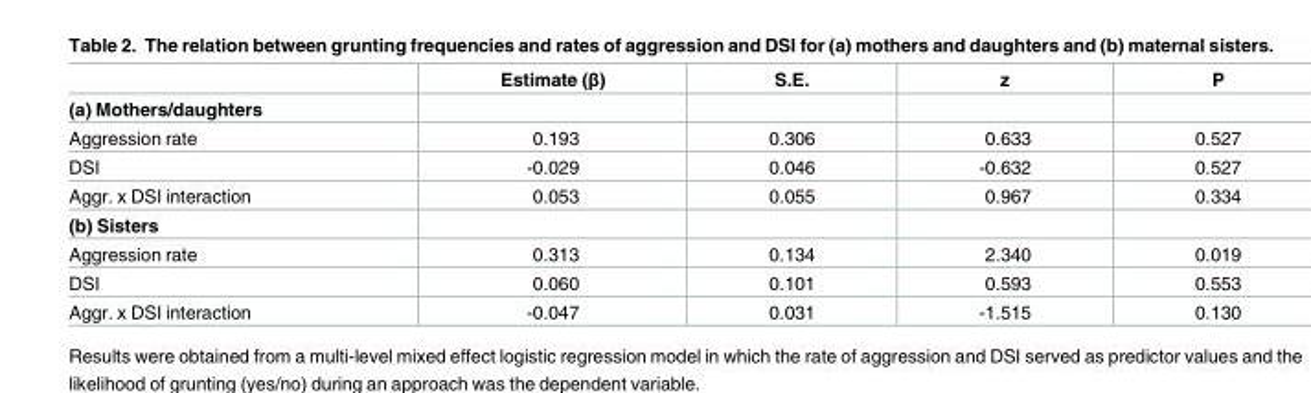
<table><thead><tr><td></td><td>Estimate (β)</td><td>S.E.</td><td>z</td><td>P</td></tr></thead><tbody><tr><td colspan="5">(a) Mothers/daughters</td></tr><tr><td>Aggression rate</td><td>0.193</td><td>0.306</td><td>0.633</td><td>0.527</td></tr><tr><td>DSI</td><td>-0.029</td><td>0.046</td><td>-0.632</td><td>0.527</td></tr><tr><td>Aggr. x DSI interaction</td><td>0.053</td><td>0.055</td><td>0.967</td><td>0.334</td></tr><tr><td colspan="5">(b) Sisters</td></tr><tr><td>Aggression rate</td><td>0.313</td><td>0.134</td><td>2.340</td><td>0.019</td></tr><tr><td>DSI</td><td>0.060</td><td>0.101</td><td>0.593</td><td>0.553</td></tr><tr><td>Aggr. x DSI interaction</td><td>-0.047</td><td>0.031</td><td>-1.515</td><td>0.130</td></tr></tbody></table>